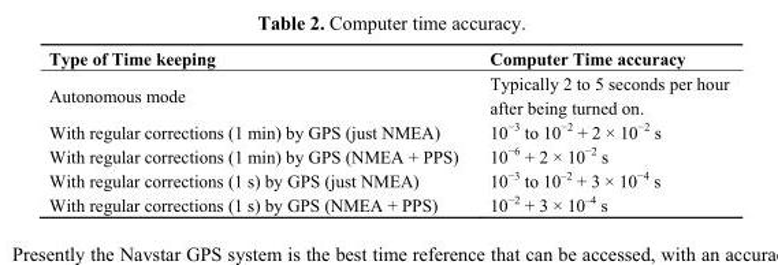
<table><thead><tr><td>Type of Time keeping</td><td>Computer Time accuracy</td></tr></thead><tbody><tr><td>Autonomous mode</td><td>Typically 2 to 5 seconds per hour after being turned on.</td></tr><tr><td>With regular corrections (1 min) by GPS (just NMEA)</td><td>10<sup>−3</sup> to 10<sup>−2</sup> + 2 × 10<sup>−2</sup> s</td></tr><tr><td>With regular corrections (1 min) by GPS (NMEA + PPS)</td><td>10<sup>−6</sup> + 2 × 10<sup>−2</sup> s</td></tr><tr><td>With regular corrections (1 s) by GPS (just NMEA)</td><td>10<sup>−3</sup> to 10<sup>–2</sup> + 3 × 10<sup>−4</sup> s</td></tr><tr><td>With regular corrections (1 s) by GPS (NMEA + PPS)</td><td>10<sup>−2</sup> + 3 × 10<sup>–4</sup> s</td></tr></tbody></table>